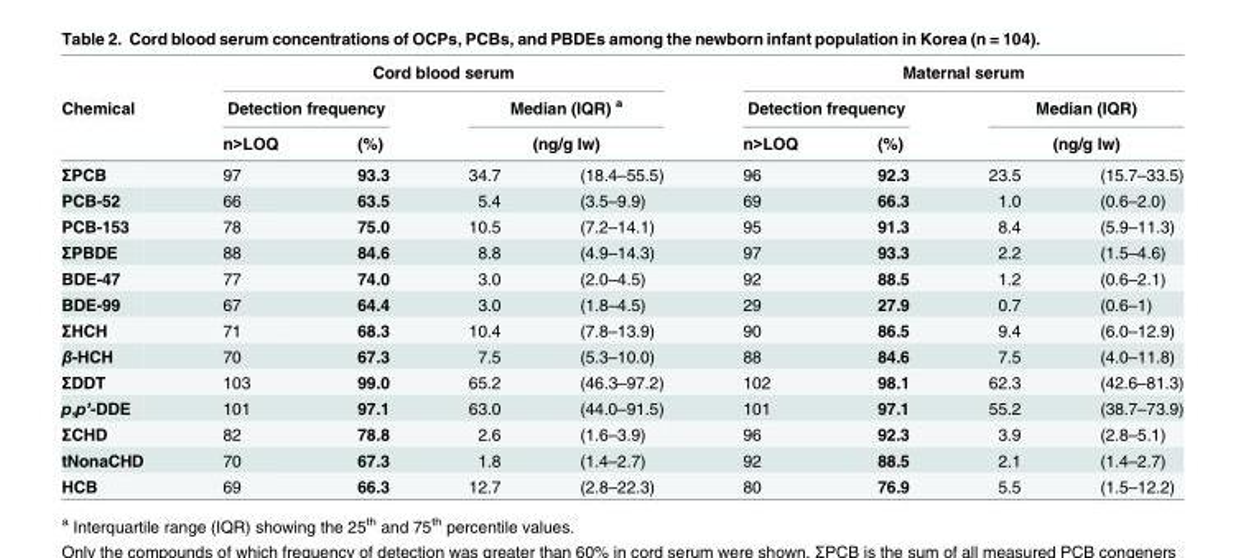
<table><thead><tr><td rowspan="4">Chemical ΣPCB</td><td colspan="4">Cord blood serum</td><td colspan="4">Maternal serum</td></tr><tr><td colspan="2">Detection frequency</td><td rowspan="2" colspan="2">Median (IQR) <sup>a</sup> (ng/g lw)</td><td colspan="2">Detection frequency</td><td rowspan="2" colspan="2">Median (IQR) (ng/g lw)</td></tr><tr><td rowspan="2">n&gt;LOQ 97</td><td rowspan="2">(%) 93.3</td><td rowspan="2">n&gt;LOQ 96</td><td rowspan="2">(%) 92.3</td></tr><tr><td>34.7</td><td>(18.4–55.5)</td><td>23.5</td><td>(15.7–33.5)</td></tr></thead><tbody><tr><td>PCB-52</td><td>66</td><td>63.5</td><td>5.4</td><td>(3.5–9.9)</td><td>69</td><td>66.3</td><td>1.0</td><td>(0.6–2.0)</td></tr><tr><td>PCB-153</td><td>78</td><td>75.0</td><td>10.5</td><td>(7.2–14.1)</td><td>95</td><td>91.3</td><td>8.4</td><td>(5.9–11.3)</td></tr><tr><td>ΣPBDE</td><td>88</td><td>84.6</td><td>8.8</td><td>(4.9–14.3)</td><td>97</td><td>93.3</td><td>2.2</td><td>(1.5–4.6)</td></tr><tr><td>BDE-47</td><td>77</td><td>74.0</td><td>3.0</td><td>(2.0–4.5)</td><td>92</td><td>88.5</td><td>1.2</td><td>(0.6–2.1)</td></tr><tr><td>BDE-99</td><td>67</td><td>64.4</td><td>3.0</td><td>(1.8–4.5)</td><td>29</td><td>27.9</td><td>0.7</td><td>(0.6–1)</td></tr><tr><td>ΣHCH</td><td>71</td><td>68.3</td><td>10.4</td><td>(7.8–13.9)</td><td>90</td><td>86.5</td><td>9.4</td><td>(6.0–12.9)</td></tr><tr><td>β-HCH</td><td>70</td><td>67.3</td><td>7.5</td><td>(5.3–10.0)</td><td>88</td><td>84.6</td><td>7.5</td><td>(4.0–11.8)</td></tr><tr><td>ΣDDT</td><td>103</td><td>99.0</td><td>65.2</td><td>(46.3–97.2)</td><td>102</td><td>98.1</td><td>62.3</td><td>(42.6–81.3)</td></tr><tr><td>p,p’-DDE</td><td>101</td><td>97.1</td><td>63.0</td><td>(44.0–91.5)</td><td>101</td><td>97.1</td><td>55.2</td><td>(38.7–73.9)</td></tr><tr><td>ΣCHD</td><td>82</td><td>78.8</td><td>2.6</td><td>(1.6–3.9)</td><td>96</td><td>92.3</td><td>3.9</td><td>(2.8–5.1)</td></tr><tr><td>tNonaCHD</td><td>70</td><td>67.3</td><td>1.8</td><td>(1.4–2.7)</td><td>92</td><td>88.5</td><td>2.1</td><td>(1.4–2.7)</td></tr><tr><td>HCB</td><td>69</td><td>66.3</td><td>12.7</td><td>(2.8–22.3)</td><td>80</td><td>76.9</td><td>5.5</td><td>(1.5–12.2)</td></tr></tbody></table>